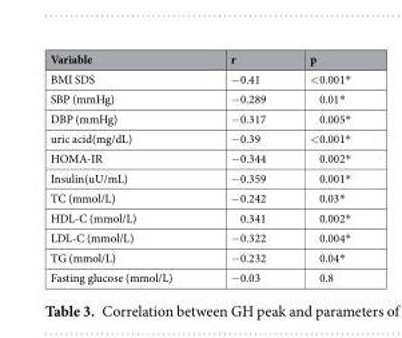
<table><thead><tr><td>Variable</td><td>r</td><td>p</td></tr></thead><tbody><tr><td>BMI SDS</td><td>−0.41</td><td>&lt;0.001*</td></tr><tr><td>SBP (mmHg)</td><td>−0.289</td><td>0.01*</td></tr><tr><td>DBP (mmHg)</td><td>−0.317</td><td>0.005*</td></tr><tr><td>uric acid(mg/dL)</td><td>−0.39</td><td>&lt;0.001*</td></tr><tr><td>HOMA-IR</td><td>−0.344</td><td>0.002*</td></tr><tr><td>Insulin(uU/mL)</td><td>−0.359</td><td>0.001*</td></tr><tr><td>TC (mmol/L)</td><td>−0.242</td><td>0.03*</td></tr><tr><td>HDL-C (mmol/L)</td><td>0.341</td><td>0.002*</td></tr><tr><td>LDL-C (mmol/L)</td><td>−0.322</td><td>0.004*</td></tr><tr><td>TG (mmol/L)</td><td>−0.232</td><td>0.04*</td></tr><tr><td>Fasting glucose (mmol/L)</td><td>−0.03</td><td>0.8</td></tr></tbody></table>